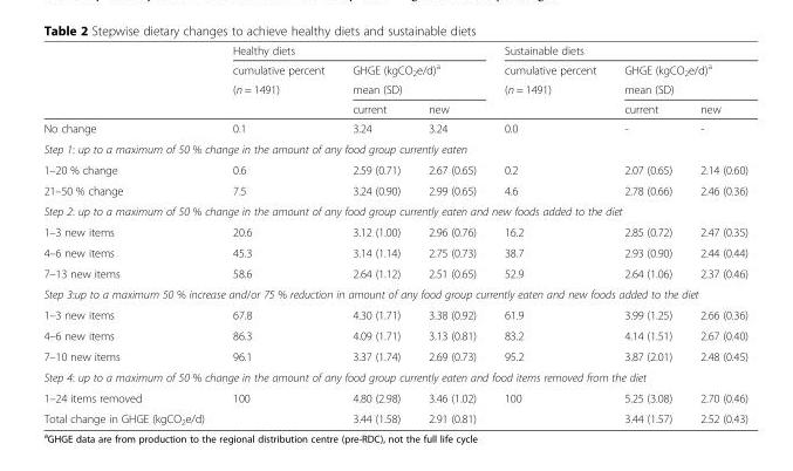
<table><thead><tr><td rowspan="4"></td><td colspan="3">Healthy diets</td><td colspan="3">Sustainable diets</td></tr><tr><td rowspan="3">cumulative percent (n = 1491)</td><td rowspan="2" colspan="2">GHGE (kgCO<sub>2</sub>e/d)<sup>a</sup> mean (SD)</td><td rowspan="3">cumulative percent (n = 1491)</td><td rowspan="2" colspan="2">GHGE (kgCO<sub>2</sub>e/d)<sup>a</sup> mean (SD)</td></tr><tr></tr><tr><td>current</td><td>new</td><td>current</td><td>new</td></tr></thead><tbody><tr><td>No change</td><td>0.1</td><td>3.24</td><td>3.24</td><td>0.0</td><td>-</td><td>-</td></tr><tr><td colspan="7">Step 1: up to a maximum of 50 % change in the amount of any food group currently eaten</td></tr><tr><td>1–20 % change</td><td>0.6</td><td>2.59 (0.71)</td><td>2.67 (0.65)</td><td>0.2</td><td>2.07 (0.65)</td><td>2.14 (0.60)</td></tr><tr><td>21–50 % change</td><td>7.5</td><td>3.24 (0.90)</td><td>2.99 (0.65)</td><td>4.6</td><td>2.78 (0.66)</td><td>2.46 (0.36)</td></tr><tr><td colspan="7">Step 2: up to a maximum of 50 % change in the amount of any food group currently eaten and new foods added to the diet</td></tr><tr><td>1–3 new items</td><td>20.6</td><td>3.12 (1.00)</td><td>2.96 (0.76)</td><td>16.2</td><td>2.85 (0.72)</td><td>2.47 (0.35)</td></tr><tr><td>4–6 new items</td><td>45.3</td><td>3.14 (1.14)</td><td>2.75 (0.73)</td><td>38.7</td><td>2.93 (0.90)</td><td>2.44 (0.44)</td></tr><tr><td>7–13 new items</td><td>58.6</td><td>2.64 (1.12)</td><td>2.51 (0.65)</td><td>52.9</td><td>2.64 (1.06)</td><td>2.37 (0.46)</td></tr><tr><td colspan="7">Step 3:up to a maximum 50 % increase and/or 75 % reduction in amount of any food group currently eaten and new foods added to the diet</td></tr><tr><td>1–3 new items</td><td>67.8</td><td>4.30 (1.71)</td><td>3.38 (0.92)</td><td>61.9</td><td>3.99 (1.25)</td><td>2.66 (0.36)</td></tr><tr><td>4–6 new items</td><td>86.3</td><td>4.09 (1.71)</td><td>3.13 (0.81)</td><td>83.2</td><td>4.14 (1.51)</td><td>2.67 (0.40)</td></tr><tr><td>7–10 new items</td><td>96.1</td><td>3.37 (1.74)</td><td>2.69 (0.73)</td><td>95.2</td><td>3.87 (2.01)</td><td>2.48 (0.45)</td></tr><tr><td colspan="7">Step 4: up to a maximum of 50 % change in the amount of any food group currently eaten and food items removed from the diet</td></tr><tr><td>1–24 items removed</td><td>100</td><td>4.80 (2.98)</td><td>3.46 (1.02)</td><td>100</td><td>5.25 (3.08)</td><td>2.70 (0.46)</td></tr><tr><td>Total change in GHGE (kgCO<sub>2</sub>e/d)</td><td></td><td>3.44 (1.58)</td><td>2.91 (0.81)</td><td></td><td>3.44 (1.57)</td><td>2.52 (0.43)</td></tr></tbody></table>